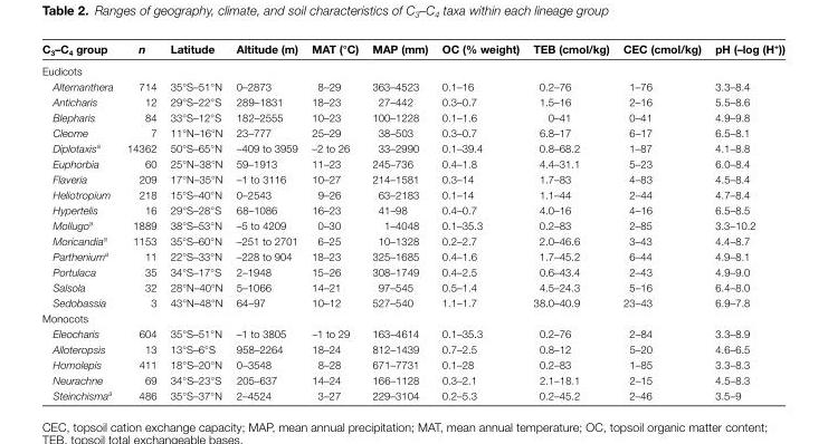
<table><thead><tr><td>C<sub>3</sub>–C<sub>4</sub> group</td><td>n</td><td>Latitude</td><td>Altitude (m)</td><td>MAT (°C)</td><td>MAP (mm)</td><td>OC (% weight)</td><td>TEB (cmol/kg)</td><td>CEC (cmol/kg)</td><td>pH (–log (H<sup>+</sup>))</td></tr></thead><tbody><tr><td colspan="10">Eudicots</td></tr><tr><td>Alternanthera</td><td>714</td><td>35°S–51°N</td><td>0–2873</td><td>8–29</td><td>363–4523</td><td>0.1–16</td><td>0.2–76</td><td>1–76</td><td>3.3–8.4</td></tr><tr><td>Anticharis</td><td>12</td><td>29°S–22°S</td><td>289–1831</td><td>18–23</td><td>27–442</td><td>0.3–0.7</td><td>1.5–16</td><td>2–16</td><td>5.5–8.6</td></tr><tr><td>Blepharis</td><td>84</td><td>33°S–12°S</td><td>182–2555</td><td>10–23</td><td>100–1228</td><td>0.1–1.6</td><td>0–41</td><td>0–41</td><td>4.9–9.8</td></tr><tr><td>Cleome</td><td>7</td><td>11°N–16°N</td><td>23–777</td><td>25–29</td><td>38–503</td><td>0.3–0.7</td><td>6.8–17</td><td>6–17</td><td>6.5–8.1</td></tr><tr><td>Diplotaxis<sup>a</sup></td><td>14362</td><td>50°S–65°N</td><td>–409 to 3959</td><td>–2 to 26</td><td>33–2990</td><td>0.1–39.4</td><td>0.8–68.2</td><td>1–87</td><td>4.1–8.8</td></tr><tr><td>Euphorbia</td><td>60</td><td>25°N–38°N</td><td>59–1913</td><td>11–23</td><td>245–736</td><td>0.4–1.8</td><td>4.4–31.1</td><td>5–23</td><td>6.0–8.4</td></tr><tr><td>Flaveria</td><td>209</td><td>17°N–35°N</td><td>–1 to 3116</td><td>10–27</td><td>214–1581</td><td>0.3–14</td><td>1.7–83</td><td>4–83</td><td>4.5–8.4</td></tr><tr><td>Heliotropium</td><td>218</td><td>15°S–40°N</td><td>0–2543</td><td>9–26</td><td>63–2183</td><td>0.1–14</td><td>1.1–44</td><td>2–44</td><td>4.7–8.4</td></tr><tr><td>Hypertelis</td><td>16</td><td>29°S–28°S</td><td>68–1086</td><td>16–23</td><td>41–98</td><td>0.4–0.7</td><td>4.0–16</td><td>4–16</td><td>6.5–8.5</td></tr><tr><td>Mollugo<sup>a</sup></td><td>1889</td><td>38°S–53°N</td><td>–5 to 4209</td><td>0–30</td><td>1–4048</td><td>0.1–35.3</td><td>0.2–83</td><td>2–85</td><td>3.3–10.2</td></tr><tr><td>Moricandia<sup>a</sup></td><td>1153</td><td>35°S–60°N</td><td>–251 to 2701</td><td>6–25</td><td>10–1328</td><td>0.2–2.7</td><td>2.0–46.6</td><td>3–43</td><td>4.4–8.7</td></tr><tr><td>Parthenium<sup>a</sup></td><td>11</td><td>22°S–33°N</td><td>–228 to 904</td><td>18–23</td><td>325–1685</td><td>0.4–1.6</td><td>1.7–45.2</td><td>6–44</td><td>4.9–8.1</td></tr><tr><td>Portulaca</td><td>35</td><td>34°S–17°S</td><td>2–1948</td><td>15–26</td><td>308–1749</td><td>0.4–2.5</td><td>0.6–43.4</td><td>2–43</td><td>4.9–9.0</td></tr><tr><td>Salsola</td><td>32</td><td>28°N–40°N</td><td>5–1066</td><td>14–21</td><td>97–545</td><td>0.5–1.4</td><td>4.5–24.3</td><td>5–16</td><td>6.4–8.0</td></tr><tr><td>Sedobassia</td><td>3</td><td>43°N–48°N</td><td>64–97</td><td>10–12</td><td>527–540</td><td>1.1–1.7</td><td>38.0–40.9</td><td>23–43</td><td>6.9–7.8</td></tr><tr><td colspan="10">Monocots</td></tr><tr><td>Eleocharis</td><td>604</td><td>35°S–51°N</td><td>–1 to 3805</td><td>–1 to 29</td><td>163–4614</td><td>0.1–35.3</td><td>0.2–76</td><td>2–84</td><td>3.3–8.9</td></tr><tr><td>Alloteropsis</td><td>13</td><td>13°S–6°S</td><td>958–2264</td><td>18–24</td><td>812–1439</td><td>0.7–2.5</td><td>0.8–12</td><td>5–20</td><td>4.6–6.5</td></tr><tr><td>Homolepis</td><td>411</td><td>18°S–20°N</td><td>0–3548</td><td>8–28</td><td>671–7731</td><td>0.1–28</td><td>0.2–83</td><td>1–85</td><td>3.3–8.3</td></tr><tr><td>Neurachne</td><td>69</td><td>34°S–23°S</td><td>205–637</td><td>14–24</td><td>166–1128</td><td>0.3–2.1</td><td>2.1–18.1</td><td>2–15</td><td>4.5–8.3</td></tr><tr><td>Steinchisma<sup>a</sup></td><td>486</td><td>35°S–37°N</td><td>2–4524</td><td>3–27</td><td>229–3104</td><td>0.2–5.3</td><td>0.2–45.2</td><td>2–46</td><td>3.5–9</td></tr></tbody></table>